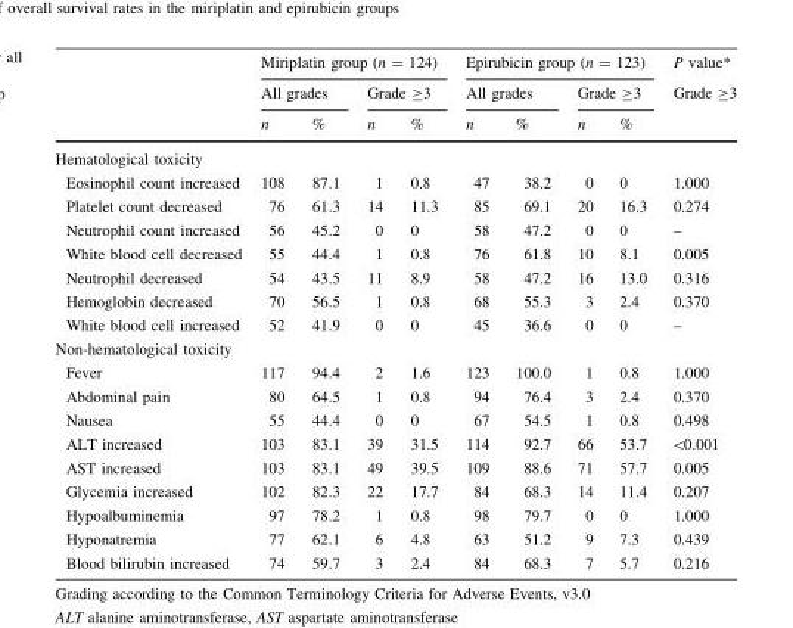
<table><thead><tr><td rowspan="3"></td><td colspan="4">Miriplatin group (n = 124)</td><td colspan="4">Epirubicin group (n = 123)</td><td rowspan="3">P value* Grade ≥3</td></tr><tr><td colspan="2">All grades</td><td colspan="2">Grade ≥3</td><td colspan="2">All grades</td><td colspan="2">Grade ≥3</td></tr><tr><td>n</td><td>%</td><td>n</td><td>%</td><td>n</td><td>%</td><td>n</td><td>%</td></tr></thead><tbody><tr><td colspan="10">Hematological toxicity</td></tr><tr><td>Eosinophil count increased</td><td>108</td><td>87.1</td><td>1</td><td>0.8</td><td>47</td><td>38.2</td><td>0</td><td>0</td><td>1.000</td></tr><tr><td>Platelet count decreased</td><td>76</td><td>61.3</td><td>14</td><td>11.3</td><td>85</td><td>69.1</td><td>20</td><td>16.3</td><td>0.274</td></tr><tr><td>Neutrophil count increased</td><td>56</td><td>45.2</td><td>0</td><td>0</td><td>58</td><td>47.2</td><td>0</td><td>0</td><td>–</td></tr><tr><td>White blood cell decreased</td><td>55</td><td>44.4</td><td>1</td><td>0.8</td><td>76</td><td>61.8</td><td>10</td><td>8.1</td><td>0.005</td></tr><tr><td>Neutrophil decreased</td><td>54</td><td>43.5</td><td>11</td><td>8.9</td><td>58</td><td>47.2</td><td>16</td><td>13.0</td><td>0.316</td></tr><tr><td>Hemoglobin decreased</td><td>70</td><td>56.5</td><td>1</td><td>0.8</td><td>68</td><td>55.3</td><td>3</td><td>2.4</td><td>0.370</td></tr><tr><td>White blood cell increased</td><td>52</td><td>41.9</td><td>0</td><td>0</td><td>45</td><td>36.6</td><td>0</td><td>0</td><td>–</td></tr><tr><td colspan="10">Non-hematological toxicity</td></tr><tr><td>Fever</td><td>117</td><td>94.4</td><td>2</td><td>1.6</td><td>123</td><td>100.0</td><td>1</td><td>0.8</td><td>1.000</td></tr><tr><td>Abdominal pain</td><td>80</td><td>64.5</td><td>1</td><td>0.8</td><td>94</td><td>76.4</td><td>3</td><td>2.4</td><td>0.370</td></tr><tr><td>Nausea</td><td>55</td><td>44.4</td><td>0</td><td>0</td><td>67</td><td>54.5</td><td>1</td><td>0.8</td><td>0.498</td></tr><tr><td>ALT increased</td><td>103</td><td>83.1</td><td>39</td><td>31.5</td><td>114</td><td>92.7</td><td>66</td><td>53.7</td><td>&lt;0.001</td></tr><tr><td>AST increased</td><td>103</td><td>83.1</td><td>49</td><td>39.5</td><td>109</td><td>88.6</td><td>71</td><td>57.7</td><td>0.005</td></tr><tr><td>Glycemia increased</td><td>102</td><td>82.3</td><td>22</td><td>17.7</td><td>84</td><td>68.3</td><td>14</td><td>11.4</td><td>0.207</td></tr><tr><td>Hypoalbuminemia</td><td>97</td><td>78.2</td><td>1</td><td>0.8</td><td>98</td><td>79.7</td><td>0</td><td>0</td><td>1.000</td></tr><tr><td>Hyponatremia</td><td>77</td><td>62.1</td><td>6</td><td>4.8</td><td>63</td><td>51.2</td><td>9</td><td>7.3</td><td>0.439</td></tr><tr><td>Blood bilirubin increased</td><td>74</td><td>59.7</td><td>3</td><td>2.4</td><td>84</td><td>68.3</td><td>7</td><td>5.7</td><td>0.216</td></tr></tbody></table>